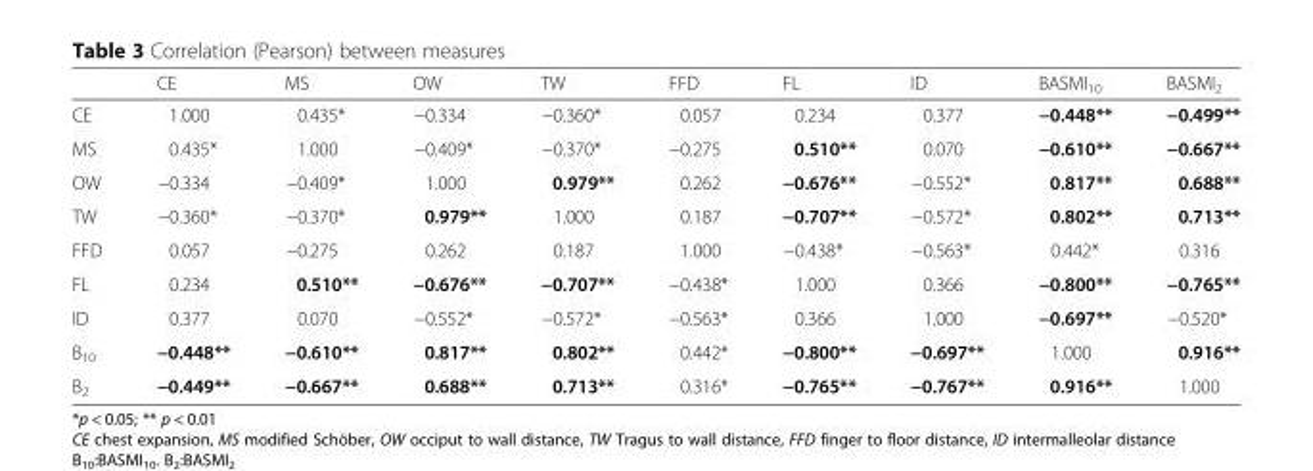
<table><thead><tr><td></td><td>CE</td><td>MS</td><td>OW</td><td>TW</td><td>FFD</td><td>FL</td><td>ID</td><td>BASMI<sub>10</sub></td><td>BASMI<sub>2</sub></td></tr></thead><tbody><tr><td>CE</td><td>1.000</td><td>0.435*</td><td>−0.334</td><td>−0.360*</td><td>0.057</td><td>0.234</td><td>0.377</td><td>−0.448**</td><td>−0.499**</td></tr><tr><td>MS</td><td>0.435*</td><td>1.000</td><td>−0.409*</td><td>−0.370*</td><td>−0.275</td><td>0.510**</td><td>0.070</td><td>−0.610**</td><td>−0.667**</td></tr><tr><td>OW</td><td>−0.334</td><td>−0.409*</td><td>1.000</td><td>0.979**</td><td>0.262</td><td>−0.676**</td><td>−0.552*</td><td>0.817**</td><td>0.688**</td></tr><tr><td>TW</td><td>−0.360*</td><td>−0.370*</td><td>0.979**</td><td>1.000</td><td>0.187</td><td>−0.707**</td><td>−0.572*</td><td>0.802**</td><td>0.713**</td></tr><tr><td>FFD</td><td>0.057</td><td>−0.275</td><td>0.262</td><td>0.187</td><td>1.000</td><td>−0.438*</td><td>−0.563*</td><td>0.442*</td><td>0.316</td></tr><tr><td>FL</td><td>0.234</td><td>0.510**</td><td>−0.676**</td><td>−0.707**</td><td>−0.438*</td><td>1.000</td><td>0.366</td><td>−0.800**</td><td>−0.765**</td></tr><tr><td>ID</td><td>0.377</td><td>0.070</td><td>−0.552*</td><td>−0.572*</td><td>−0.563*</td><td>0.366</td><td>1.000</td><td>−0.697**</td><td>−0.520*</td></tr><tr><td>B<sub>10</sub></td><td>−0.448**</td><td>−0.610**</td><td>0.817**</td><td>0.802**</td><td>0.442*</td><td>−0.800**</td><td>−0.697**</td><td>1.000</td><td>0.916**</td></tr><tr><td>B<sub>2</sub></td><td>−0.449**</td><td>−0.667**</td><td>0.688**</td><td>0.713**</td><td>0.316*</td><td>−0.765**</td><td>−0.767**</td><td>0.916**</td><td>1.000</td></tr></tbody></table>